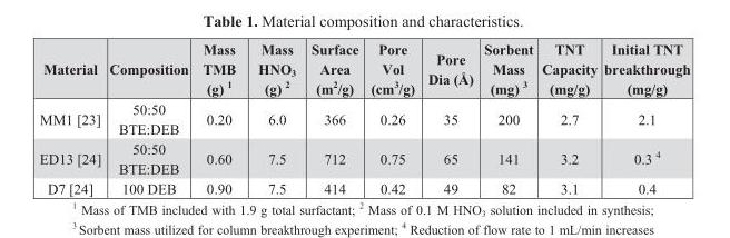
<table><thead><tr><td>Material</td><td>Composition</td><td>Mass TMB (g) <sup>1</sup></td><td>Mass HNO<sub>3</sub> (g) <sup>2</sup></td><td>Surface Area (m<sup>2</sup>/g)</td><td>Pore Vol (cm<sup>3</sup>/g)</td><td>Pore Dia (Å)</td><td>Sorbent Mass (mg) <sup>3</sup></td><td>TNT Capacity (mg/g)</td><td>Initial TNT breakthrough (mg/g)</td></tr></thead><tbody><tr><td>MM1 [23]</td><td>50:50 BTE:DEB</td><td>0.20</td><td>6.0</td><td>366</td><td>0.26</td><td>35</td><td>200</td><td>2.7</td><td>2.1</td></tr><tr><td>ED13 [24]</td><td>50:50 BTE:DEB</td><td>0.60</td><td>7.5</td><td>712</td><td>0.75</td><td>65</td><td>141</td><td>3.2</td><td>0.3 4</td></tr><tr><td>D7 [24]</td><td>100 DEB</td><td>0.90</td><td>7.5</td><td>414</td><td>0.42</td><td>49</td><td>82</td><td>3.1</td><td>0.4</td></tr></tbody></table>